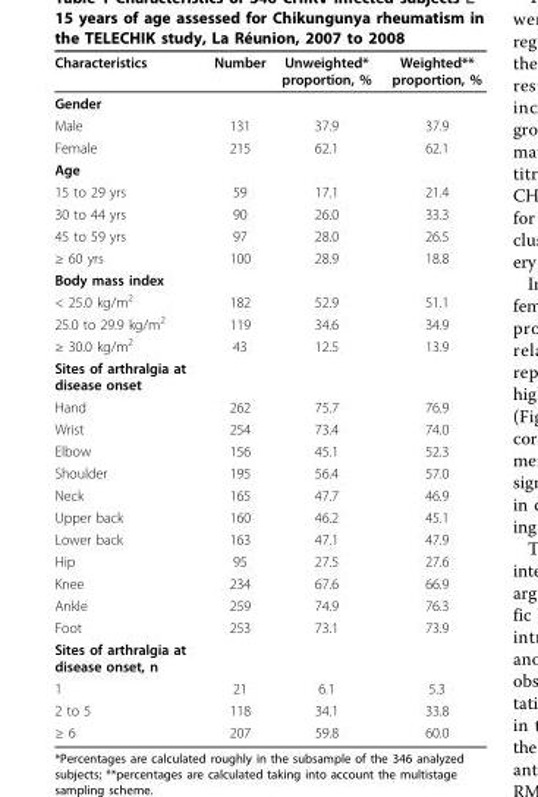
<table><thead><tr><td>Characteristics</td><td>Number</td><td>Unweighted* proportion, %</td><td>Weighted** proportion, %</td></tr></thead><tbody><tr><td colspan="4">Gender</td></tr><tr><td>Male</td><td>131</td><td>37.9</td><td>37.9</td></tr><tr><td>Female</td><td>215</td><td>62.1</td><td>62.1</td></tr><tr><td colspan="4">Age</td></tr><tr><td>15 to 29 yrs</td><td>59</td><td>17.1</td><td>21.4</td></tr><tr><td>30 to 44 yrs</td><td>90</td><td>26.0</td><td>33.3</td></tr><tr><td>45 to 59 yrs</td><td>97</td><td>28.0</td><td>26.5</td></tr><tr><td>≥ 60 yrs</td><td>100</td><td>28.9</td><td>18.8</td></tr><tr><td colspan="4">Body mass index</td></tr><tr><td>&lt; 25.0 kg/m<sup>2</sup></td><td>182</td><td>52.9</td><td>51.1</td></tr><tr><td>25.0 to 29.9 kg/m<sup>2</sup></td><td>119</td><td>34.6</td><td>34.9</td></tr><tr><td>≥ 30.0 kg/m<sup>2</sup></td><td>43</td><td>12.5</td><td>13.9</td></tr><tr><td colspan="4">Sites of arthralgia at disease onset</td></tr><tr><td>Hand</td><td>262</td><td>75.7</td><td>76.9</td></tr><tr><td>Wrist</td><td>254</td><td>73.4</td><td>74.0</td></tr><tr><td>Elbow</td><td>156</td><td>45.1</td><td>52.3</td></tr><tr><td>Shoulder</td><td>195</td><td>56.4</td><td>57.0</td></tr><tr><td>Neck</td><td>165</td><td>47.7</td><td>46.9</td></tr><tr><td>Upper back</td><td>160</td><td>46.2</td><td>45.1</td></tr><tr><td>Lower back</td><td>163</td><td>47.1</td><td>47.9</td></tr><tr><td>Hip</td><td>95</td><td>27.5</td><td>27.6</td></tr><tr><td>Knee</td><td>234</td><td>67.6</td><td>66.9</td></tr><tr><td>Ankle</td><td>259</td><td>74.9</td><td>76.3</td></tr><tr><td>Foot</td><td>253</td><td>73.1</td><td>73.9</td></tr><tr><td colspan="4">Sites of arthralgia at disease onset, n</td></tr><tr><td>1</td><td>21</td><td>6.1</td><td>5.3</td></tr><tr><td>2 to 5</td><td>118</td><td>34.1</td><td>33.8</td></tr><tr><td>≥ 6</td><td>207</td><td>59.8</td><td>60.0</td></tr></tbody></table>